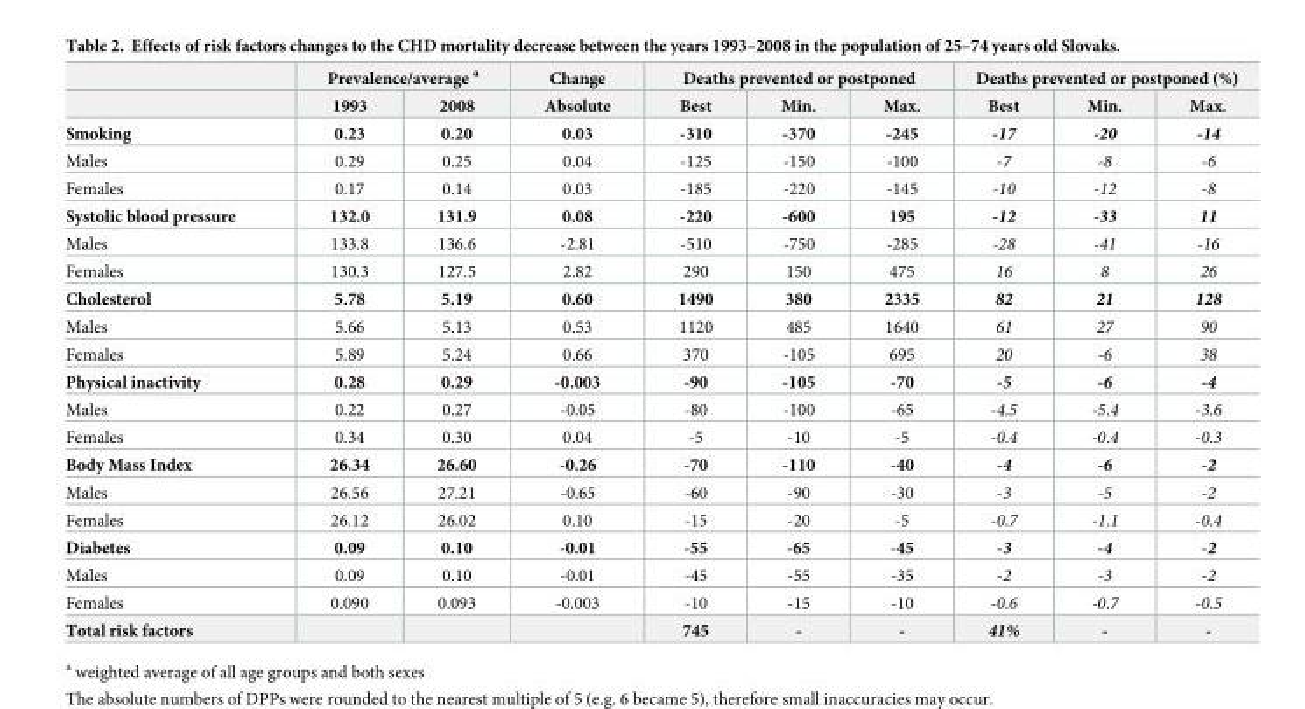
<table><thead><tr><td rowspan="2"></td><td colspan="2">Prevalence/average <sup>a</sup></td><td rowspan="2">Change Absolute</td><td colspan="3">Deaths prevented or postponed</td><td colspan="3">Deaths prevented or postponed (%)</td></tr><tr><td>1993</td><td>2008</td><td>Best</td><td>Min.</td><td>Max.</td><td>Best</td><td>Min.</td><td>Max.</td></tr></thead><tbody><tr><td>Smoking</td><td>0.23</td><td>0.20</td><td>0.03</td><td>-310</td><td>-370</td><td>-245</td><td>-17</td><td>-20</td><td>-14</td></tr><tr><td>Males</td><td>0.29</td><td>0.25</td><td>0.04</td><td>-125</td><td>-150</td><td>-100</td><td>-7</td><td>-8</td><td>-6</td></tr><tr><td>Females</td><td>0.17</td><td>0.14</td><td>0.03</td><td>-185</td><td>-220</td><td>-145</td><td>-10</td><td>-12</td><td>-8</td></tr><tr><td>Systolic blood pressure</td><td>132.0</td><td>131.9</td><td>0.08</td><td>-220</td><td>-600</td><td>195</td><td>-12</td><td>-33</td><td>11</td></tr><tr><td>Males</td><td>133.8</td><td>136.6</td><td>-2.81</td><td>-510</td><td>-750</td><td>-285</td><td>-28</td><td>-41</td><td>-16</td></tr><tr><td>Females</td><td>130.3</td><td>127.5</td><td>2.82</td><td>290</td><td>150</td><td>475</td><td>16</td><td>8</td><td>26</td></tr><tr><td>Cholesterol</td><td>5.78</td><td>5.19</td><td>0.60</td><td>1490</td><td>380</td><td>2335</td><td>82</td><td>21</td><td>128</td></tr><tr><td>Males</td><td>5.66</td><td>5.13</td><td>0.53</td><td>1120</td><td>485</td><td>1640</td><td>61</td><td>27</td><td>90</td></tr><tr><td>Females</td><td>5.89</td><td>5.24</td><td>0.66</td><td>370</td><td>-105</td><td>695</td><td>20</td><td>-6</td><td>38</td></tr><tr><td>Physical inactivity</td><td>0.28</td><td>0.29</td><td>-0.003</td><td>-90</td><td>-105</td><td>-70</td><td>-5</td><td>-6</td><td>-4</td></tr><tr><td>Males</td><td>0.22</td><td>0.27</td><td>-0.05</td><td>-80</td><td>-100</td><td>-65</td><td>-4.5</td><td>-5.4</td><td>-3.6</td></tr><tr><td>Females</td><td>0.34</td><td>0.30</td><td>0.04</td><td>-5</td><td>-10</td><td>-5</td><td>-0.4</td><td>-0.4</td><td>-0.3</td></tr><tr><td>Body Mass Index</td><td>26.34</td><td>26.60</td><td>-0.26</td><td>-70</td><td>-110</td><td>-40</td><td>-4</td><td>-6</td><td>-2</td></tr><tr><td>Males</td><td>26.56</td><td>27.21</td><td>-0.65</td><td>-60</td><td>-90</td><td>-30</td><td>-3</td><td>-5</td><td>-2</td></tr><tr><td>Females</td><td>26.12</td><td>26.02</td><td>0.10</td><td>-15</td><td>-20</td><td>-5</td><td>-0.7</td><td>-1.1</td><td>-0.4</td></tr><tr><td>Diabetes</td><td>0.09</td><td>0.10</td><td>-0.01</td><td>-55</td><td>-65</td><td>-45</td><td>-3</td><td>-4</td><td>-2</td></tr><tr><td>Males</td><td>0.09</td><td>0.10</td><td>-0.01</td><td>-45</td><td>-55</td><td>-35</td><td>-2</td><td>-3</td><td>-2</td></tr><tr><td>Females</td><td>0.090</td><td>0.093</td><td>-0.003</td><td>-10</td><td>-15</td><td>-10</td><td>-0.6</td><td>-0.7</td><td>-0.5</td></tr><tr><td>Total risk factors</td><td></td><td></td><td></td><td>745</td><td>-</td><td>-</td><td>41%</td><td>-</td><td>-</td></tr></tbody></table>